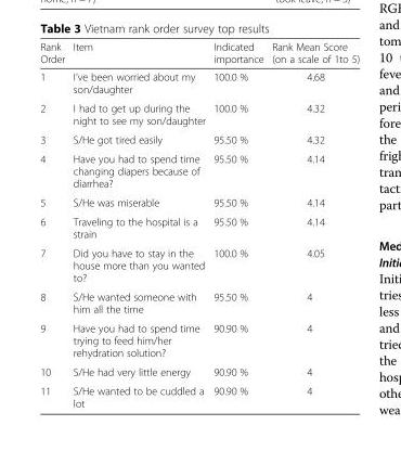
<table><thead><tr><td>Rank Order</td><td>Item</td><td>Indicated importance</td><td>Rank Mean Score (on a scale of 1to 5)</td></tr></thead><tbody><tr><td>1</td><td>I’ve been worried about my son/daughter</td><td>100.0 %</td><td>4.68</td></tr><tr><td>2</td><td>I had to get up during the night to see my son/daughter</td><td>100.0 %</td><td>4.32</td></tr><tr><td>3</td><td>S/He got tired easily</td><td>95.50 %</td><td>4.32</td></tr><tr><td>4</td><td>Have you had to spend time changing diapers because of diarrhea?</td><td>95.50 %</td><td>4.14</td></tr><tr><td>5</td><td>S/He was miserable</td><td>95.50 %</td><td>4.14</td></tr><tr><td>6</td><td>Traveling to the hospital is a strain</td><td>95.50 %</td><td>4.14</td></tr><tr><td>7</td><td>Did you have to stay in the house more than you wanted to?</td><td>100.0 %</td><td>4.05</td></tr><tr><td>8</td><td>S/He wanted someone with him all the time</td><td>95.50 %</td><td>4</td></tr><tr><td>9</td><td>Have you had to spend time trying to feed him/her rehydration solution?</td><td>90.90 %</td><td>4</td></tr><tr><td>10</td><td>S/He had very little energy</td><td>90.90 %</td><td>4</td></tr><tr><td>11</td><td>S/He wanted to be cuddled a lot</td><td>90.90 %</td><td>4</td></tr></tbody></table>